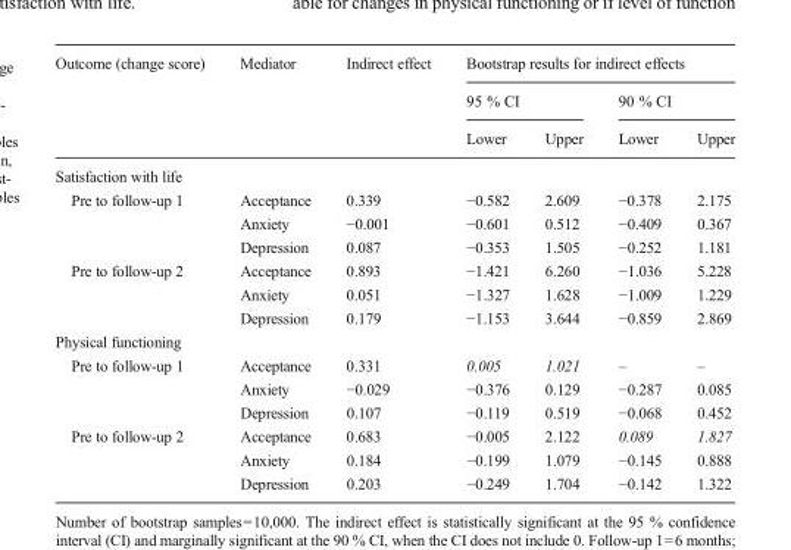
<table><thead><tr><td rowspan="3">Outcome (change score)</td><td rowspan="3">Mediator</td><td rowspan="3">Indirect effect</td><td colspan="4">Bootstrap results for indirect effects</td></tr><tr><td colspan="2">95 % CI</td><td colspan="2">90 % CI</td></tr><tr><td>Lower</td><td>Upper</td><td>Lower</td><td>Upper</td></tr></thead><tbody><tr><td colspan="7">Satisfaction with life</td></tr><tr><td rowspan="3">Pre to follow-up 1</td><td>Acceptance</td><td>0.339</td><td>−0.582</td><td>2.609</td><td>−0.378</td><td>2.175</td></tr><tr><td>Anxiety</td><td>−0.001</td><td>−0.601</td><td>0.512</td><td>−0.409</td><td>0.367</td></tr><tr><td>Depression</td><td>0.087</td><td>−0.353</td><td>1.505</td><td>−0.252</td><td>1.181</td></tr><tr><td rowspan="3">Pre to follow-up 2</td><td>Acceptance</td><td>0.893</td><td>−1.421</td><td>6.260</td><td>−1.036</td><td>5.228</td></tr><tr><td>Anxiety</td><td>0.051</td><td>−1.327</td><td>1.628</td><td>−1.009</td><td>1.229</td></tr><tr><td>Depression</td><td>0.179</td><td>−1.153</td><td>3.644</td><td>−0.859</td><td>2.869</td></tr><tr><td colspan="7">Physical functioning</td></tr><tr><td rowspan="3">Pre to follow-up 1</td><td>Acceptance</td><td>0.331</td><td>0.005</td><td>1.021</td><td>–</td><td>–</td></tr><tr><td>Anxiety</td><td>−0.029</td><td>−0.376</td><td>0.129</td><td>−0.287</td><td>0.085</td></tr><tr><td>Depression</td><td>0.107</td><td>−0.119</td><td>0.519</td><td>−0.068</td><td>0.452</td></tr><tr><td rowspan="3">Pre to follow-up 2</td><td>Acceptance</td><td>0.683</td><td>−0.005</td><td>2.122</td><td>0.089</td><td>1.827</td></tr><tr><td>Anxiety</td><td>0.184</td><td>−0.199</td><td>1.079</td><td>−0.145</td><td>0.888</td></tr><tr><td>Depression</td><td>0.203</td><td>−0.249</td><td>1.704</td><td>−0.142</td><td>1.322</td></tr></tbody></table>